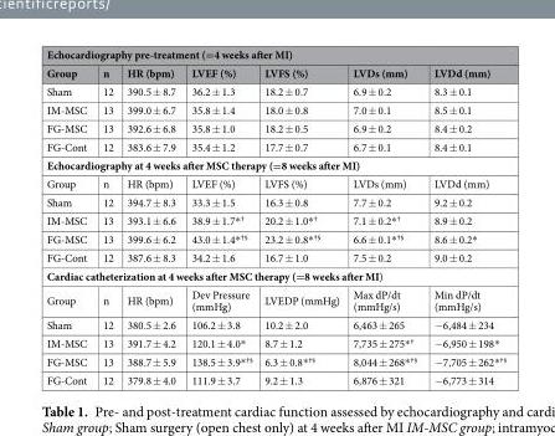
<table><thead><tr><td colspan="7">Echocardiography pre-treatment (=4 weeks after MI)</td></tr><tr><td>Group</td><td>n</td><td>HR (bpm)</td><td>LVEF (%)</td><td>LVFS (%)</td><td>LVDs (mm)</td><td>LVDd (mm)</td></tr></thead><tbody><tr><td>Sham</td><td>12</td><td>390.5 ± 8.7</td><td>36.2 ± 1.3</td><td>18.2 ± 0.7</td><td>6.9 ± 0.2</td><td>8.3 ± 0.1</td></tr><tr><td>IM-MSC</td><td>13</td><td>399.0 ± 6.7</td><td>35.8 ± 1.4</td><td>18.0 ± 0.8</td><td>7.0 ± 0.1</td><td>8.5 ± 0.1</td></tr><tr><td>FG-MSC</td><td>13</td><td>392.6 ± 6.8</td><td>35.8 ± 1.0</td><td>18.2 ± 0.5</td><td>6.9 ± 0.2</td><td>8.4 ± 0.2</td></tr><tr><td>FG-Cont</td><td>12</td><td>383.6 ± 7.9</td><td>35.4 ± 1.2</td><td>17.7 ± 0.7</td><td>6.7 ± 0.1</td><td>8.4 ± 0.1</td></tr><tr><td colspan="7">Echocardiography at 4 weeks after MSC therapy (=8 weeks after MI)</td></tr><tr><td>Group</td><td>n</td><td>HR (bpm)</td><td>LVEF (%)</td><td>LVFS (%)</td><td>LVDs (mm)</td><td>LVDd (mm)</td></tr><tr><td>Sham</td><td>12</td><td>394.7 ± 8.3</td><td>33.3 ± 1.5</td><td>16.3 ± 0.8</td><td>7.7 ± 0.2</td><td>9.2 ± 0.2</td></tr><tr><td>IM-MSC</td><td>13</td><td>393.1 ± 6.6</td><td>38.9 ± 1.7*<sup>†</sup></td><td>20.2 ± 1.0*<sup>†</sup></td><td>7.1 ± 0.2*<sup>†</sup></td><td>8.9 ± 0.2</td></tr><tr><td>FG-MSC</td><td>13</td><td>399.6 ± 6.2</td><td>43.0 ± 1.4*<sup>†§</sup></td><td>23.2 ± 0.8*<sup>†§</sup></td><td>6.6 ± 0.1*<sup>†§</sup></td><td>8.6 ± 0.2*</td></tr><tr><td>FG-Cont</td><td>12</td><td>387.6 ± 8.3</td><td>34.2 ± 1.6</td><td>16.7 ± 1.0</td><td>7.5 ± 0.2</td><td>9.0 ± 0.2</td></tr><tr><td colspan="7">Cardiac catheterization at 4 weeks after MSC therapy (=8 weeks after MI)</td></tr><tr><td>Group</td><td>n</td><td>HR (bpm)</td><td>Dev Pressure (mmHg)</td><td>LVEDP (mmHg)</td><td>Max dP/dt (mmHg/s)</td><td>Min dP/dt (mmHg/s)</td></tr><tr><td>Sham</td><td>12</td><td>380.5 ± 2.6</td><td>106.2 ± 3.8</td><td>10.2 ± 2.0</td><td>6,463 ± 265</td><td>−6,484 ± 234</td></tr><tr><td>IM-MSC</td><td>13</td><td>391.7 ± 4.2</td><td>120.1 ± 4.0*</td><td>8.7 ± 1.2</td><td>7,735 ± 275*<sup>†</sup></td><td>−6,950 ± 198*</td></tr><tr><td>FG-MSC</td><td>13</td><td>388.7 ± 5.9</td><td>138.5 ± 3.9*<sup>†§</sup></td><td>6.3 ± 0.8*<sup>†§</sup></td><td>8,044 ± 268*<sup>†§</sup></td><td>−7,705 ± 262*<sup>†§</sup></td></tr><tr><td>FG-Cont</td><td>12</td><td>379.8 ± 4.0</td><td>111.9 ± 3.7</td><td>9.2 ± 1.3</td><td>6,876 ± 321</td><td>−6,773 ± 314</td></tr></tbody></table>